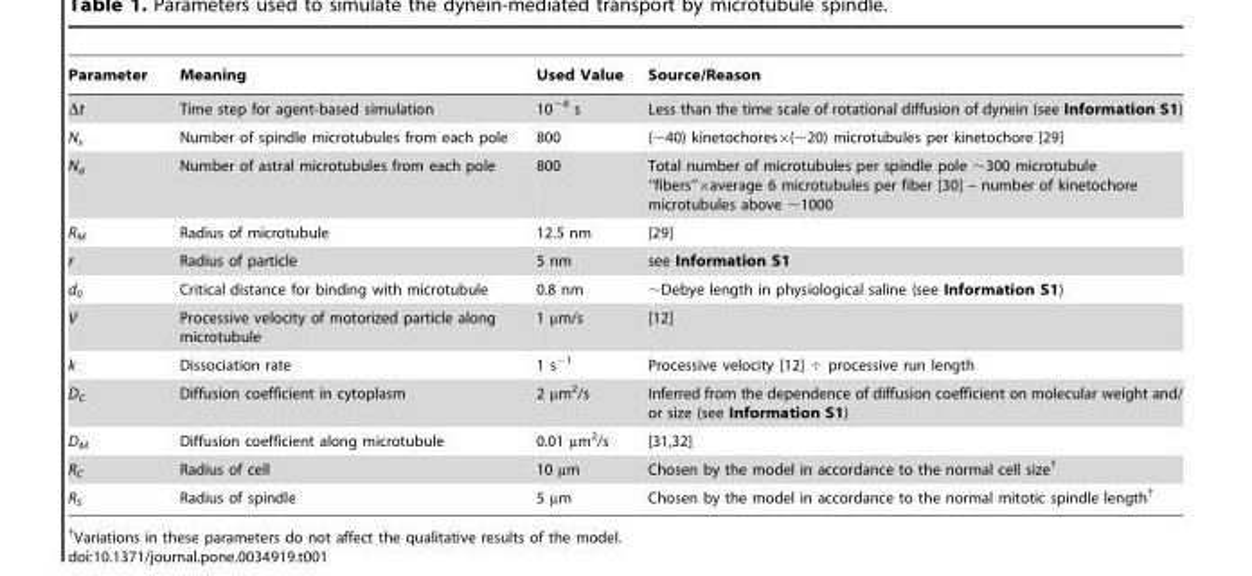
<table><thead><tr><td>Parameter</td><td>Meaning</td><td>Used Value</td><td>Source/Reason</td></tr></thead><tbody><tr><td>Δt</td><td>Time step for agent-based simulation</td><td>10<sup>−4</sup> s</td><td>Less than the time scale of rotational diffusion of dynein (see Information S1)</td></tr><tr><td>N<sub>s</sub></td><td>Number of spindle microtubules from each pole</td><td>800</td><td>(∼40) kinetochores×(∼20) microtubules per kinetochore [29]</td></tr><tr><td>N<sub>a</sub></td><td>Number of astral microtubules from each pole</td><td>800</td><td>Total number of microtubules per spindle pole ,300 microtubule ‘‘fibers’’6average 6 microtubules per fiber [30] – number of kinetochore microtubules above ,1000</td></tr><tr><td>R<sub>M</sub></td><td>Radius of microtubule</td><td>12.5 nm</td><td>[29]</td></tr><tr><td>r</td><td>Radius of particle</td><td>5 nm</td><td>see Information S1</td></tr><tr><td>d<sub>0</sub></td><td>Critical distance for binding with microtubule</td><td>0.8 nm</td><td>∼Debye length in physiological saline (see Information S1)</td></tr><tr><td>V</td><td>Processive velocity of motorized particle along microtubule</td><td>1 µm/s</td><td>[12]</td></tr><tr><td>k</td><td>Dissociation rate</td><td>1 s<sup>−1</sup></td><td>Processive velocity [12] ÷ processive run length</td></tr><tr><td>D<sub>C</sub></td><td>Diffusion coefficient in cytoplasm</td><td>2 µm<sup>2</sup>/s</td><td>Inferred from the dependence of diffusion coefficient on molecular weight and/ or size (see Information S1)</td></tr><tr><td>D<sub>M</sub></td><td>Diffusion coefficient along microtubule</td><td>0.01 µm<sup>2</sup>/s</td><td>[31,32]</td></tr><tr><td>R<sub>C</sub></td><td>Radius of cell</td><td>10 µm</td><td>Chosen by the model in accordance to the normal cell size†</td></tr><tr><td>R<sub>S</sub></td><td>Radius of spindle</td><td>5 µm</td><td>Chosen by the model in accordance to the normal mitotic spindle length†</td></tr></tbody></table>